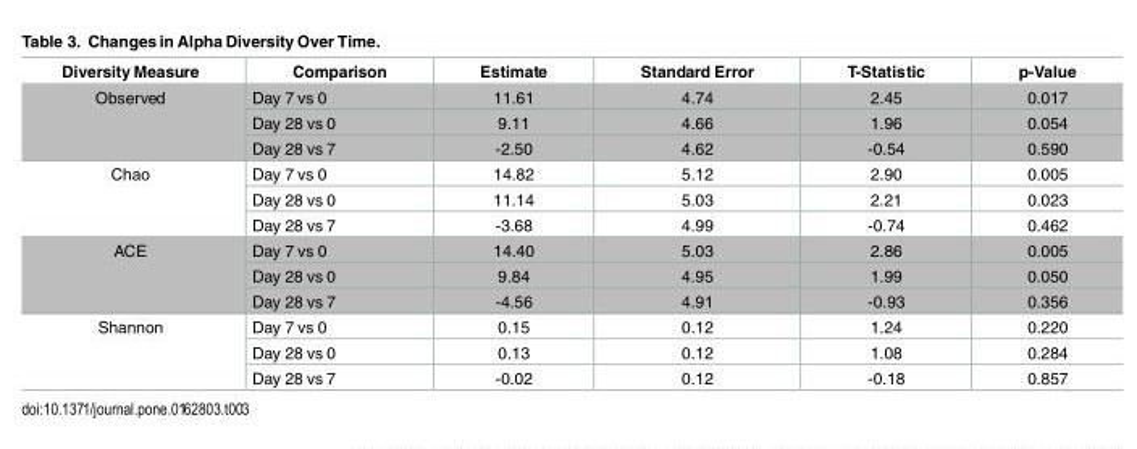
<table><thead><tr><td>Diversity Measure</td><td>Comparison</td><td>Estimate</td><td>Standard Error</td><td>T-Statistic</td><td>p-Value</td></tr></thead><tbody><tr><td rowspan="3">Observed</td><td>Day 7 vs 0</td><td>11.61</td><td>4.74</td><td>2.45</td><td>0.017</td></tr><tr><td>Day 28 vs 0</td><td>9.11</td><td>4.66</td><td>1.96</td><td>0.054</td></tr><tr><td>Day 28 vs 7</td><td>-2.50</td><td>4.62</td><td>-0.54</td><td>0.590</td></tr><tr><td rowspan="3">Chao</td><td>Day 7 vs 0</td><td>14.82</td><td>5.12</td><td>2.90</td><td>0.005</td></tr><tr><td>Day 28 vs 0</td><td>11.14</td><td>5.03</td><td>2.21</td><td>0.023</td></tr><tr><td>Day 28 vs 7</td><td>-3.68</td><td>4.99</td><td>-0.74</td><td>0.462</td></tr><tr><td rowspan="3">ACE</td><td>Day 7 vs 0</td><td>14.40</td><td>5.03</td><td>2.86</td><td>0.005</td></tr><tr><td>Day 28 vs 0</td><td>9.84</td><td>4.95</td><td>1.99</td><td>0.050</td></tr><tr><td>Day 28 vs 7</td><td>-4.56</td><td>4.91</td><td>-0.93</td><td>0.356</td></tr><tr><td rowspan="3">Shannon</td><td>Day 7 vs 0</td><td>0.15</td><td>0.12</td><td>1.24</td><td>0.220</td></tr><tr><td>Day 28 vs 0</td><td>0.13</td><td>0.12</td><td>1.08</td><td>0.284</td></tr><tr><td>Day 28 vs 7</td><td>-0.02</td><td>0.12</td><td>-0.18</td><td>0.857</td></tr></tbody></table>